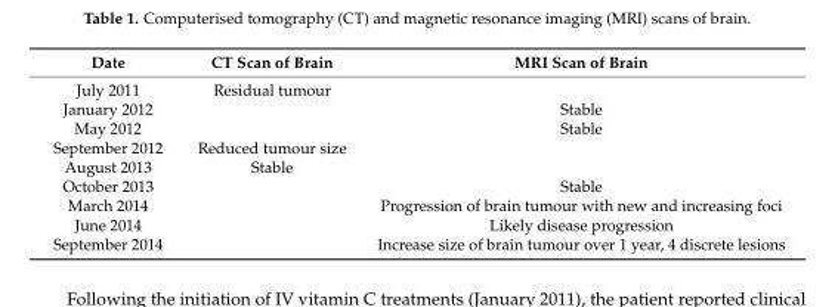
<table><thead><tr><td>Date</td><td>CT Scan of Brain</td><td>MRI Scan of Brain</td></tr></thead><tbody><tr><td>July 2011</td><td>Residual tumour</td><td></td></tr><tr><td>January 2012</td><td></td><td>Stable</td></tr><tr><td>May 2012</td><td></td><td>Stable</td></tr><tr><td>September 2012</td><td>Reduced tumour size</td><td></td></tr><tr><td>August 2013</td><td>Stable</td><td></td></tr><tr><td>October 2013</td><td></td><td>Stable</td></tr><tr><td>March 2014</td><td></td><td>Progression of brain tumour with new and increasing foci</td></tr><tr><td>June 2014</td><td></td><td>Likely disease progression</td></tr><tr><td>September 2014</td><td></td><td>Increase size of brain tumour over 1 year, 4 discrete lesions</td></tr></tbody></table>